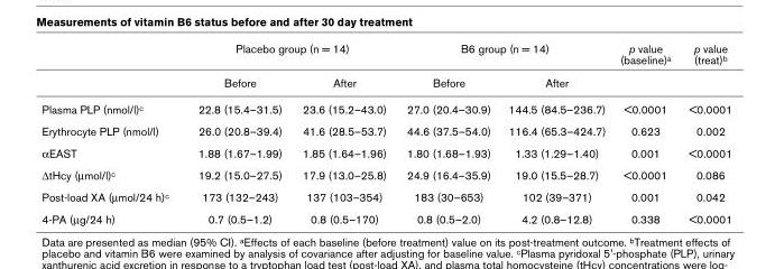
<table><thead><tr><td rowspan="2"></td><td colspan="2">Placebo group (n = 14)</td><td colspan="2">B6 group (n = 14)</td><td rowspan="2">p value (baseline)a</td><td rowspan="2">p value (treat)b</td></tr><tr><td>Before</td><td>After</td><td>Before</td><td>After</td></tr></thead><tbody><tr><td>Plasma PLP (nmol/l)c</td><td>22.8 (15.4–31.5)</td><td>23.6 (15.2–43.0)</td><td>27.0 (20.4–30.9)</td><td>144.5 (84.5–236.7)</td><td>&lt;0.0001</td><td>&lt;0.0001</td></tr><tr><td>Erythrocyte PLP (nmol/l)</td><td>26.0 (20.8–39.4)</td><td>41.6 (28.5–53.7)</td><td>44.6 (37.5–54.0)</td><td>116.4 (65.3–424.7)</td><td>0.623</td><td>0.002</td></tr><tr><td>αEAST</td><td>1.88 (1.67–1.99)</td><td>1.85 (1.64–1.96)</td><td>1.80 (1.68–1.93)</td><td>1.33 (1.29–1.40)</td><td>0.001</td><td>&lt;0.0001</td></tr><tr><td>∆tHcy (µmol/l)c</td><td>19.2 (15.0–27.5)</td><td>17.9 (13.0–25.8)</td><td>24.9 (16.4–35.9)</td><td>19.0 (15.5–28.7)</td><td>&lt;0.0001</td><td>0.086</td></tr><tr><td>Post-load XA (µmol/24 h)c</td><td>173 (132–243)</td><td>137 (103–354)</td><td>183 (30–653)</td><td>102 (39–371)</td><td>0.001</td><td>0.042</td></tr><tr><td>4-PA (µg/24 h)</td><td>0.7 (0.5–1.2)</td><td>0.8 (0.5–170)</td><td>0.8 (0.5–2.0)</td><td>4.2 (0.8–12.8)</td><td>0.338</td><td>&lt;0.0001</td></tr></tbody></table>